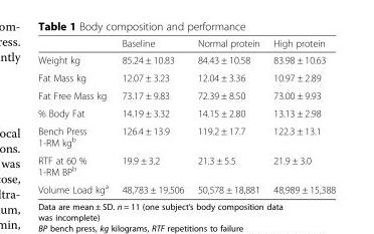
<table><thead><tr><td></td><td>Baseline</td><td>Normal protein</td><td>High protein</td></tr></thead><tbody><tr><td>Weight kg</td><td>85.24 ± 10.83</td><td>84.43 ± 10.58</td><td>83.98 ± 10.63</td></tr><tr><td>Fat Mass kg</td><td>12.07 ± 3.23</td><td>12.04 ± 3.36</td><td>10.97 ± 2.89</td></tr><tr><td>Fat Free Mass kg</td><td>73.17 ± 9.83</td><td>72.39 ± 8.50</td><td>73.00 ± 9.93</td></tr><tr><td>% Body Fat</td><td>14.19 ± 3.32</td><td>14.15 ± 2.80</td><td>13.13 ± 2.98</td></tr><tr><td>Bench Press 1-RM kg<sup>b</sup></td><td>126.4 ± 13.9</td><td>119.2 ± 17.7</td><td>122.3 ± 13.1</td></tr><tr><td>RTF at 60 % 1-RM BP<sup>b</sup></td><td>19.9 ± 3.2</td><td>21.3 ± 5.5</td><td>21.9 ± 3.0</td></tr><tr><td>Volume Load kg<sup>a</sup></td><td>48,783 ± 19,506</td><td>50,578 ± 18,881</td><td>48,989 ± 15,388</td></tr></tbody></table>